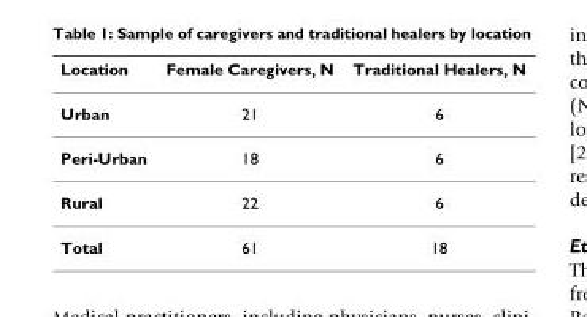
<table><thead><tr><td>Location</td><td>Female Caregivers, N</td><td>Traditional Healers, N</td></tr></thead><tbody><tr><td>Urban</td><td>21</td><td>6</td></tr><tr><td>Peri-Urban</td><td>18</td><td>6</td></tr><tr><td>Rural</td><td>22</td><td>6</td></tr><tr><td>Total</td><td>61</td><td>18</td></tr></tbody></table>